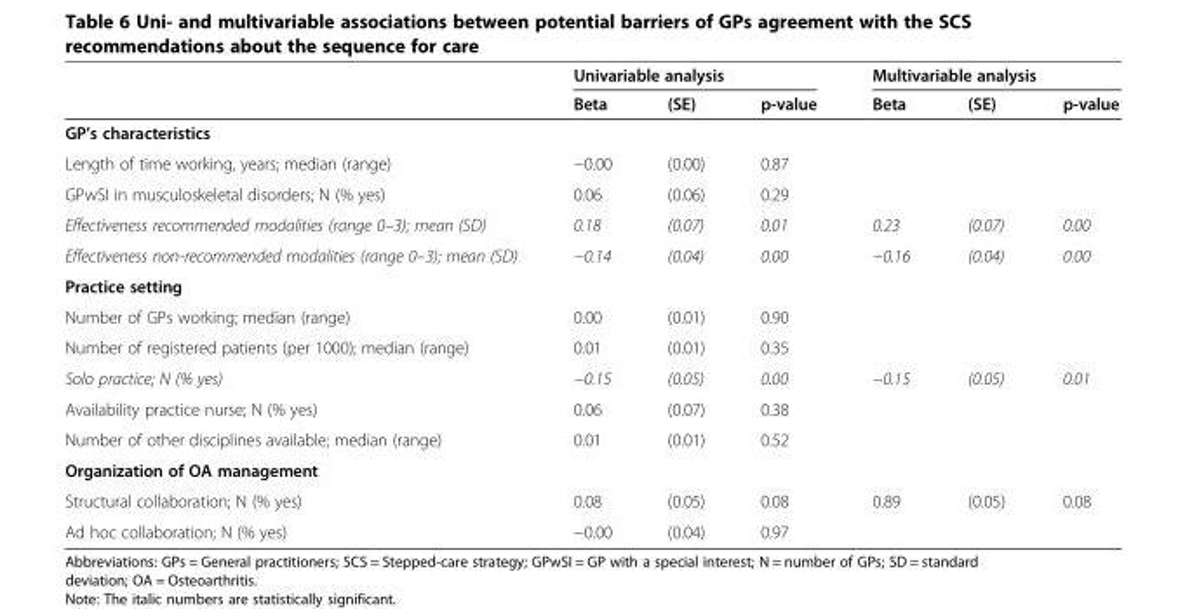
<table><thead><tr><td rowspan="2"></td><td colspan="3">Univariable analysis</td><td colspan="3">Multivariable analysis</td></tr><tr><td>Beta</td><td>(SE)</td><td>p-value</td><td>Beta</td><td>(SE)</td><td>p-value</td></tr></thead><tbody><tr><td colspan="7">GP’s characteristics</td></tr><tr><td>Length of time working, years; median (range)</td><td>−0.00</td><td>(0.00)</td><td>0.87</td><td></td><td></td><td></td></tr><tr><td>GPwSI in musculoskeletal disorders; N (% yes)</td><td>0.06</td><td>(0.06)</td><td>0.29</td><td></td><td></td><td></td></tr><tr><td>Effectiveness recommended modalities (range 0–3); mean (SD)</td><td>0.18</td><td>(0.07)</td><td>0.01</td><td>0.23</td><td>(0.07)</td><td>0.00</td></tr><tr><td>Effectiveness non-recommended modalities (range 0–3); mean (SD)</td><td>−0.14</td><td>(0.04)</td><td>0.00</td><td>−0.16</td><td>(0.04)</td><td>0.00</td></tr><tr><td colspan="7">Practice setting</td></tr><tr><td>Number of GPs working; median (range)</td><td>0.00</td><td>(0.01)</td><td>0.90</td><td></td><td></td><td></td></tr><tr><td>Number of registered patients (per 1000); median (range)</td><td>0.01</td><td>(0.01)</td><td>0.35</td><td></td><td></td><td></td></tr><tr><td>Solo practice; N (% yes)</td><td>−0.15</td><td>(0.05)</td><td>0.00</td><td>−0.15</td><td>(0.05)</td><td>0.01</td></tr><tr><td>Availability practice nurse; N (% yes)</td><td>0.06</td><td>(0.07)</td><td>0.38</td><td></td><td></td><td></td></tr><tr><td>Number of other disciplines available; median (range)</td><td>0.01</td><td>(0.01)</td><td>0.52</td><td></td><td></td><td></td></tr><tr><td colspan="7">Organization of OA management</td></tr><tr><td>Structural collaboration; N (% yes)</td><td>0.08</td><td>(0.05)</td><td>0.08</td><td>0.89</td><td>(0.05)</td><td>0.08</td></tr><tr><td>Ad hoc collaboration; N (% yes)</td><td>−0.00</td><td>(0.04)</td><td>0.97</td><td></td><td></td><td></td></tr></tbody></table>